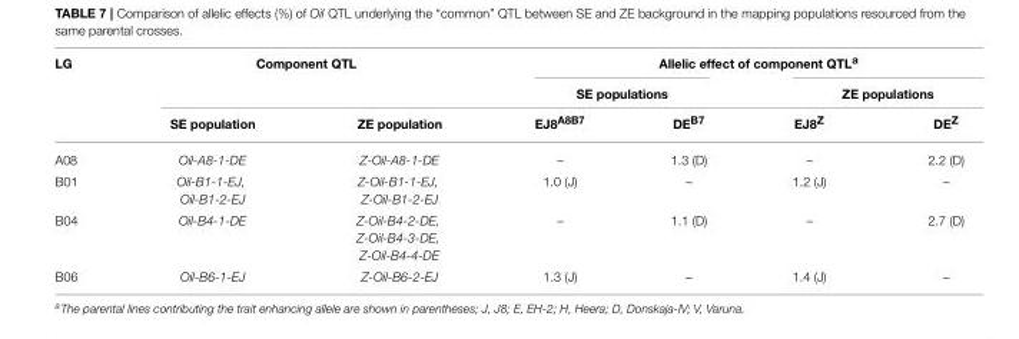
<table><thead><tr><td rowspan="3">LG</td><td colspan="2">Component QTL</td><td colspan="4">Allelic effect of component QTL<sup>a</sup></td></tr><tr><td rowspan="2">SE population</td><td rowspan="2">ZE population</td><td colspan="2">SE populations</td><td colspan="2">ZE populations</td></tr><tr><td>EJ8<sup>A8B7</sup></td><td>DE<sup>B7</sup></td><td>EJ8<sup>Z</sup></td><td>DE<sup>Z</sup></td></tr></thead><tbody><tr><td>A08</td><td>Oil-A8-1-DE</td><td>Z-Oil-A8-1-DE</td><td>–</td><td>1.3 (D)</td><td>–</td><td>2.2 (D)</td></tr><tr><td>B01</td><td>Oil-B1-1-EJ, Oil-B1-2-EJ</td><td>Z-Oil-B1-1-EJ, Z-Oil-B1-2-EJ</td><td>1.0 (J)</td><td>–</td><td>1.2 (J)</td><td>–</td></tr><tr><td>B04</td><td>Oil-B4-1-DE</td><td>Z-Oil-B4-2-DE, Z-Oil-B4-3-DE, Z-Oil-B4-4-DE</td><td>–</td><td>1.1 (D)</td><td>–</td><td>2.7 (D)</td></tr><tr><td>B06</td><td>Oil-B6-1-EJ</td><td>Z-Oil-B6-2-EJ</td><td>1.3 (J)</td><td>–</td><td>1.4 (J)</td><td>–</td></tr></tbody></table>